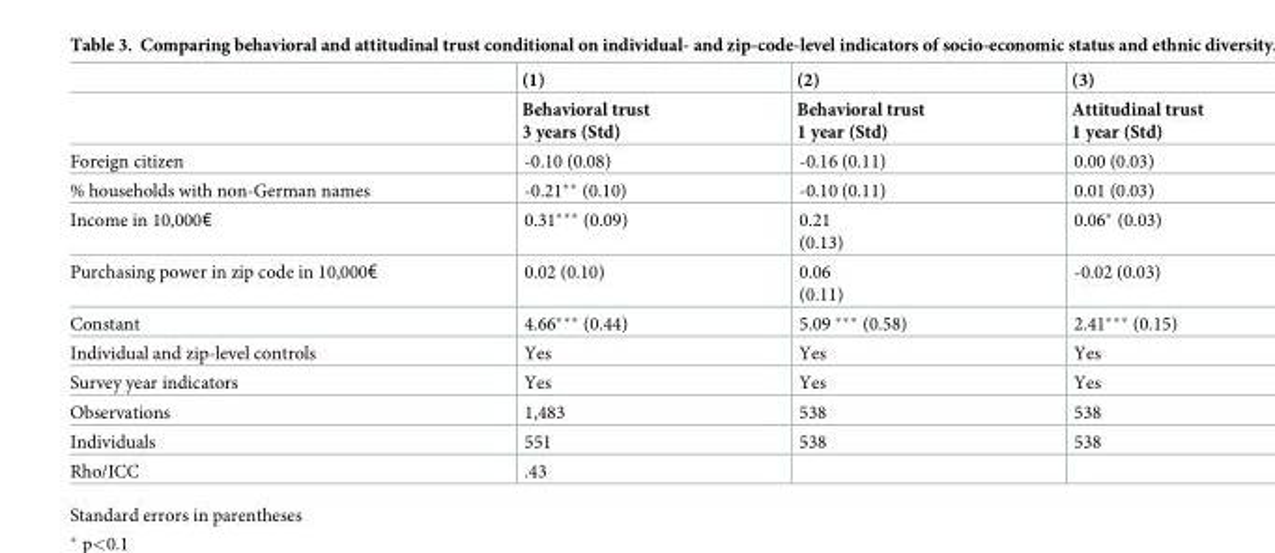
<table><thead><tr><td rowspan="2"></td><td rowspan="2">(1) Behavioral trust 3 years (Std)</td><td rowspan="2">(2) Behavioral trust 1 year (Std)</td><td rowspan="2">(3) Attitudinal trust 1 year (Std)</td></tr><tr></tr></thead><tbody><tr><td>Foreign citizen</td><td>-0.10 (0.08)</td><td>-0.16 (0.11)</td><td>0.00 (0.03)</td></tr><tr><td>% households with non-German names</td><td>-0.21** (0.10)</td><td>-0.10 (0.11)</td><td>0.01 (0.03)</td></tr><tr><td>Income in 10,000€</td><td>0.31*** (0.09)</td><td>0.21 (0.13)</td><td>0.06* (0.03)</td></tr><tr><td>Purchasing power in zip code in 10,000€</td><td>0.02 (0.10)</td><td>0.06 (0.11)</td><td>-0.02 (0.03)</td></tr><tr><td>Constant</td><td>4.66*** (0.44)</td><td>5.09 *** (0.58)</td><td>2.41*** (0.15)</td></tr><tr><td>Individual and zip-level controls</td><td>Yes</td><td>Yes</td><td>Yes</td></tr><tr><td>Survey year indicators</td><td>Yes</td><td>Yes</td><td>Yes</td></tr><tr><td>Observations</td><td>1,483</td><td>538</td><td>538</td></tr><tr><td>Individuals</td><td>551</td><td>538</td><td>538</td></tr><tr><td>Rho/ICC</td><td>.43</td><td></td><td></td></tr></tbody></table>